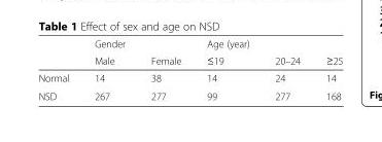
<table><thead><tr><td rowspan="2"></td><td rowspan="2">Gender Male</td><td rowspan="2">Female</td><td rowspan="2">Age (year) ≤19</td><td rowspan="2">20–24</td><td rowspan="2">≥25</td></tr><tr></tr></thead><tbody><tr><td>Normal</td><td>14</td><td>38</td><td>14</td><td>24</td><td>14</td></tr><tr><td>NSD</td><td>267</td><td>277</td><td>99</td><td>277</td><td>168</td></tr></tbody></table>